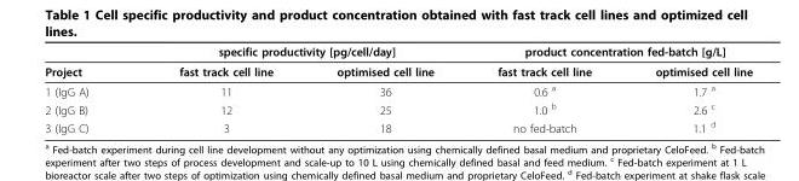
<table><thead><tr><td rowspan="2">Project</td><td colspan="2">specific productivity [pg/cell/day]</td><td colspan="2">product concentration fed-batch [g/L]</td></tr><tr><td>fast track cell line</td><td>optimised cell line</td><td>fast track cell line</td><td>optimised cell line</td></tr></thead><tbody><tr><td>1 (IgG A)</td><td>11</td><td>36</td><td>0.6 <sup>a</sup></td><td>1.7 <sup>a</sup></td></tr><tr><td>2 (IgG B)</td><td>12</td><td>25</td><td>1.0 <sup>b</sup></td><td>2.6 <sup>c</sup></td></tr><tr><td>3 (IgG C)</td><td>3</td><td>18</td><td>no fed-batch</td><td>1.1 <sup>d</sup></td></tr></tbody></table>